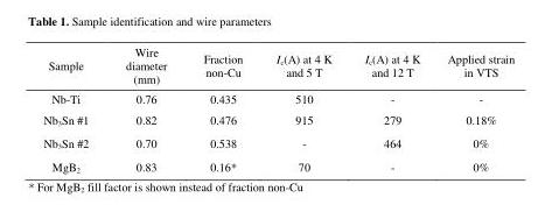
<table><thead><tr><td>Sample</td><td>Wire diameter (mm)</td><td>Fraction non-Cu</td><td>I<sub>c</sub>(A) at 4 K and 5 T</td><td>I<sub>c</sub>(A) at 4 K and 12 T</td><td>Applied strain in VTS</td></tr></thead><tbody><tr><td>Nb-Ti</td><td>0.76</td><td>0.435</td><td>510</td><td>-</td><td>-</td></tr><tr><td>Nb<sub>3</sub>Sn #1</td><td>0.82</td><td>0.476</td><td>915</td><td>279</td><td>0.18%</td></tr><tr><td>Nb<sub>3</sub>Sn #2</td><td>0.70</td><td>0.538</td><td>-</td><td>464</td><td>0%</td></tr><tr><td>MgB<sub>2</sub></td><td>0.83</td><td>0.16*</td><td>70</td><td>-</td><td>0%</td></tr></tbody></table>